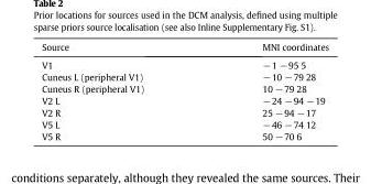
<table><thead><tr><td>Source</td><td>MNI coordinates</td></tr></thead><tbody><tr><td>V1</td><td>−1 −95 5</td></tr><tr><td>Cuneus L (peripheral V1)</td><td>−10 −79 28</td></tr><tr><td>Cuneus R (peripheral V1)</td><td>10 −79 28</td></tr><tr><td>V2 L</td><td>−24 −94 −19</td></tr><tr><td>V2 R</td><td>25 −94 −17</td></tr><tr><td>V5 L</td><td>−46 −74 12</td></tr><tr><td>V5 R</td><td>50 −70 6</td></tr></tbody></table>